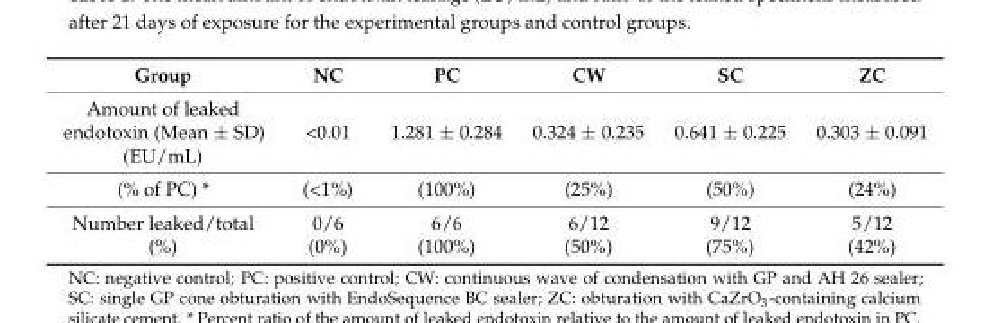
<table><thead><tr><td>Group</td><td>NC</td><td>PC</td><td>CW</td><td>SC</td><td>ZC</td></tr></thead><tbody><tr><td>Amount of leaked endotoxin (Mean ± SD) (EU/mL)</td><td>&lt;0.01</td><td>1.281 ± 0.284</td><td>0.324 ± 0.235</td><td>0.641 ± 0.225</td><td>0.303 ± 0.091</td></tr><tr><td>(% of PC) *</td><td>(&lt;1%)</td><td>(100%)</td><td>(25%)</td><td>(50%)</td><td>(24%)</td></tr><tr><td>Number leaked/total (%)</td><td>0/6 (0%)</td><td>6/6 (100%)</td><td>6/12 (50%)</td><td>9/12 (75%)</td><td>5/12 (42%)</td></tr></tbody></table>